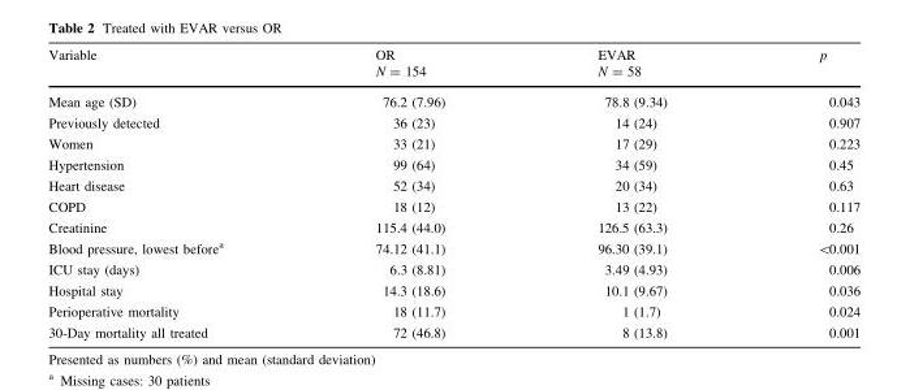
<table><thead><tr><td>Variable</td><td>OR N = 154</td><td>EVAR N = 58</td><td>p</td></tr></thead><tbody><tr><td>Mean age (SD)</td><td>76.2 (7.96)</td><td>78.8 (9.34)</td><td>0.043</td></tr><tr><td>Previously detected</td><td>36 (23)</td><td>14 (24)</td><td>0.907</td></tr><tr><td>Women</td><td>33 (21)</td><td>17 (29)</td><td>0.223</td></tr><tr><td>Hypertension</td><td>99 (64)</td><td>34 (59)</td><td>0.45</td></tr><tr><td>Heart disease</td><td>52 (34)</td><td>20 (34)</td><td>0.63</td></tr><tr><td>COPD</td><td>18 (12)</td><td>13 (22)</td><td>0.117</td></tr><tr><td>Creatinine</td><td>115.4 (44.0)</td><td>126.5 (63.3)</td><td>0.26</td></tr><tr><td>Blood pressure, lowest before<sup>a</sup></td><td>74.12 (41.1)</td><td>96.30 (39.1)</td><td>&lt;0.001</td></tr><tr><td>ICU stay (days)</td><td>6.3 (8.81)</td><td>3.49 (4.93)</td><td>0.006</td></tr><tr><td>Hospital stay</td><td>14.3 (18.6)</td><td>10.1 (9.67)</td><td>0.036</td></tr><tr><td>Perioperative mortality</td><td>18 (11.7)</td><td>1 (1.7)</td><td>0.024</td></tr><tr><td>30-Day mortality all treated</td><td>72 (46.8)</td><td>8 (13.8)</td><td>0.001</td></tr></tbody></table>